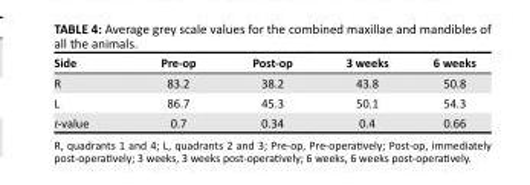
<table><thead><tr><td>Side</td><td>Pre-op</td><td>Post-op</td><td>3 weeks</td><td>6 weeks</td></tr></thead><tbody><tr><td>R</td><td>83.2</td><td>38.2</td><td>43.8</td><td>50.8</td></tr><tr><td>L</td><td>86.7</td><td>45.3</td><td>50.1</td><td>54.3</td></tr><tr><td>t-value</td><td>0.7</td><td>0.34</td><td>0.4</td><td>0.66</td></tr></tbody></table>